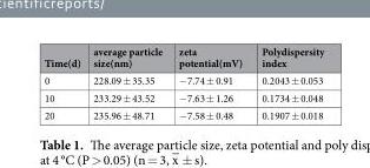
<table><thead><tr><td>Time(d)</td><td>average particle size(nm)</td><td>zeta potential(mV)</td><td>Polydispersity index</td></tr></thead><tbody><tr><td>0</td><td>228.09 ± 35.35</td><td>−7.74 ± 0.91</td><td>0.2043 ± 0.053</td></tr><tr><td>10</td><td>233.29 ± 43.52</td><td>−7.63 ± 1.26</td><td>0.1734 ± 0.048</td></tr><tr><td>20</td><td>235.96 ± 48.71</td><td>−7.58 ± 0.48</td><td>0.1907 ± 0.018</td></tr></tbody></table>